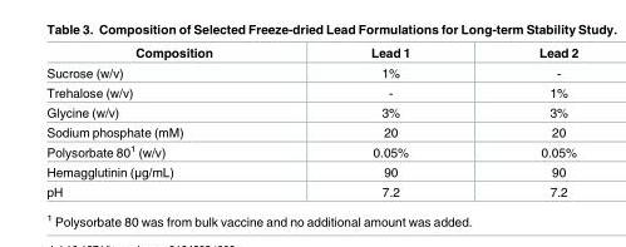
<table><thead><tr><td>Composition</td><td>Lead 1</td><td>Lead 2</td></tr></thead><tbody><tr><td>Sucrose (w/v)</td><td>1%</td><td>-</td></tr><tr><td>Trehalose (w/v)</td><td>-</td><td>1%</td></tr><tr><td>Glycine (w/v)</td><td>3%</td><td>3%</td></tr><tr><td>Sodium phosphate (mM)</td><td>20</td><td>20</td></tr><tr><td>Polysorbate 80<sup>1</sup> (w/v)</td><td>0.05%</td><td>0.05%</td></tr><tr><td>Hemagglutinin (μg/mL)</td><td>90</td><td>90</td></tr><tr><td>pH</td><td>7.2</td><td>7.2</td></tr></tbody></table>